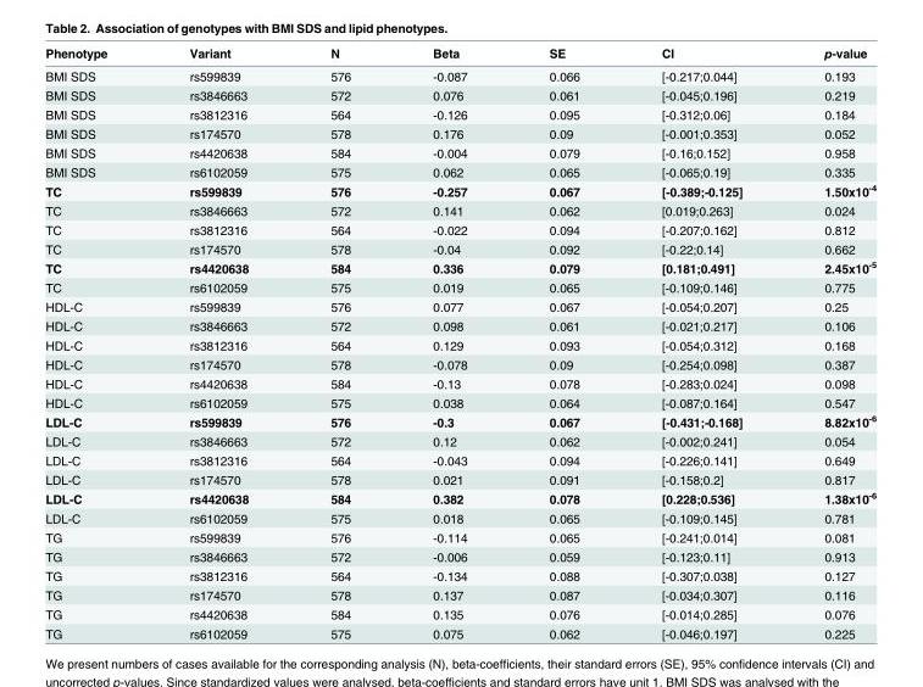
<table><thead><tr><td>Phenotype</td><td>Variant</td><td>N</td><td>Beta</td><td>SE</td><td>CI</td><td>p-value</td></tr></thead><tbody><tr><td>BMI SDS</td><td>rs599839</td><td>576</td><td>-0.087</td><td>0.066</td><td>[-0.217;0.044]</td><td>0.193</td></tr><tr><td>BMI SDS</td><td>rs3846663</td><td>572</td><td>0.076</td><td>0.061</td><td>[-0.045;0.196]</td><td>0.219</td></tr><tr><td>BMI SDS</td><td>rs3812316</td><td>564</td><td>-0.126</td><td>0.095</td><td>[-0.312;0.06]</td><td>0.184</td></tr><tr><td>BMI SDS</td><td>rs174570</td><td>578</td><td>0.176</td><td>0.09</td><td>[-0.001;0.353]</td><td>0.052</td></tr><tr><td>BMI SDS</td><td>rs4420638</td><td>584</td><td>-0.004</td><td>0.079</td><td>[-0.16;0.152]</td><td>0.958</td></tr><tr><td>BMI SDS</td><td>rs6102059</td><td>575</td><td>0.062</td><td>0.065</td><td>[-0.065;0.19]</td><td>0.335</td></tr><tr><td>TC</td><td>rs599839</td><td>576</td><td>-0.257</td><td>0.067</td><td>[-0.389;-0.125]</td><td>1.50x10<sup>-4</sup></td></tr><tr><td>TC</td><td>rs3846663</td><td>572</td><td>0.141</td><td>0.062</td><td>[0.019;0.263]</td><td>0.024</td></tr><tr><td>TC</td><td>rs3812316</td><td>564</td><td>-0.022</td><td>0.094</td><td>[-0.207;0.162]</td><td>0.812</td></tr><tr><td>TC</td><td>rs174570</td><td>578</td><td>-0.04</td><td>0.092</td><td>[-0.22;0.14]</td><td>0.662</td></tr><tr><td>TC</td><td>rs4420638</td><td>584</td><td>0.336</td><td>0.079</td><td>[0.181;0.491]</td><td>2.45x10<sup>-5</sup></td></tr><tr><td>TC</td><td>rs6102059</td><td>575</td><td>0.019</td><td>0.065</td><td>[-0.109;0.146]</td><td>0.775</td></tr><tr><td>HDL-C</td><td>rs599839</td><td>576</td><td>0.077</td><td>0.067</td><td>[-0.054;0.207]</td><td>0.25</td></tr><tr><td>HDL-C</td><td>rs3846663</td><td>572</td><td>0.098</td><td>0.061</td><td>[-0.021;0.217]</td><td>0.106</td></tr><tr><td>HDL-C</td><td>rs3812316</td><td>564</td><td>0.129</td><td>0.093</td><td>[-0.054;0.312]</td><td>0.168</td></tr><tr><td>HDL-C</td><td>rs174570</td><td>578</td><td>-0.078</td><td>0.09</td><td>[-0.254;0.098]</td><td>0.387</td></tr><tr><td>HDL-C</td><td>rs4420638</td><td>584</td><td>-0.13</td><td>0.078</td><td>[-0.283;0.024]</td><td>0.098</td></tr><tr><td>HDL-C</td><td>rs6102059</td><td>575</td><td>0.038</td><td>0.064</td><td>[-0.087;0.164]</td><td>0.547</td></tr><tr><td>LDL-C</td><td>rs599839</td><td>576</td><td>-0.3</td><td>0.067</td><td>[-0.431;-0.168]</td><td>8.82x10<sup>-6</sup></td></tr><tr><td>LDL-C</td><td>rs3846663</td><td>572</td><td>0.12</td><td>0.062</td><td>[-0.002;0.241]</td><td>0.054</td></tr><tr><td>LDL-C</td><td>rs3812316</td><td>564</td><td>-0.043</td><td>0.094</td><td>[-0.226;0.141]</td><td>0.649</td></tr><tr><td>LDL-C</td><td>rs174570</td><td>578</td><td>0.021</td><td>0.091</td><td>[-0.158;0.2]</td><td>0.817</td></tr><tr><td>LDL-C</td><td>rs4420638</td><td>584</td><td>0.382</td><td>0.078</td><td>[0.228;0.536]</td><td>1.38x10<sup>-6</sup></td></tr><tr><td>LDL-C</td><td>rs6102059</td><td>575</td><td>0.018</td><td>0.065</td><td>[-0.109;0.145]</td><td>0.781</td></tr><tr><td>TG</td><td>rs599839</td><td>576</td><td>-0.114</td><td>0.065</td><td>[-0.241;0.014]</td><td>0.081</td></tr><tr><td>TG</td><td>rs3846663</td><td>572</td><td>-0.006</td><td>0.059</td><td>[-0.123;0.11]</td><td>0.913</td></tr><tr><td>TG</td><td>rs3812316</td><td>564</td><td>-0.134</td><td>0.088</td><td>[-0.307;0.038]</td><td>0.127</td></tr><tr><td>TG</td><td>rs174570</td><td>578</td><td>0.137</td><td>0.087</td><td>[-0.034;0.307]</td><td>0.116</td></tr><tr><td>TG</td><td>rs4420638</td><td>584</td><td>0.135</td><td>0.076</td><td>[-0.014;0.285]</td><td>0.076</td></tr><tr><td>TG</td><td>rs6102059</td><td>575</td><td>0.075</td><td>0.062</td><td>[-0.046;0.197]</td><td>0.225</td></tr></tbody></table>